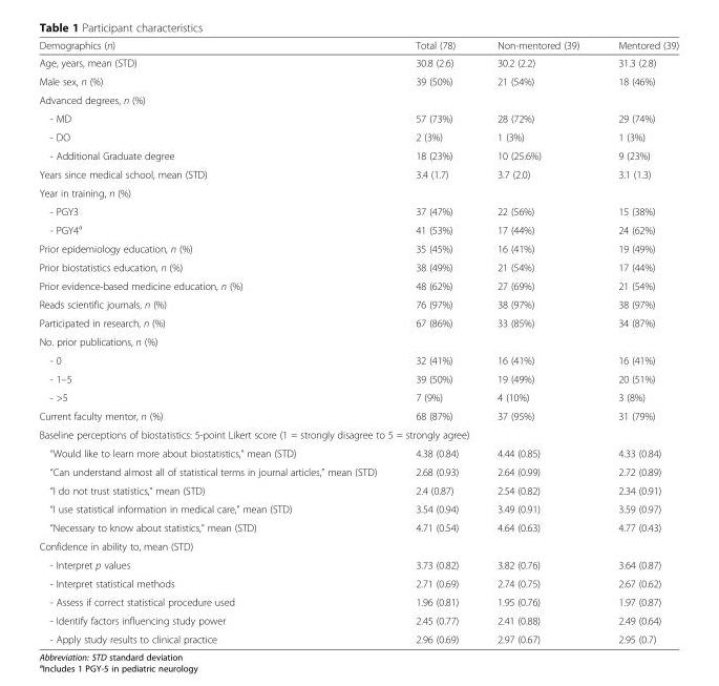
<table><thead><tr><td>Demographics (n)</td><td>Total (78)</td><td>Non-mentored (39)</td><td>Mentored (39)</td></tr></thead><tbody><tr><td>Age, years, mean (STD)</td><td>30.8 (2.6)</td><td>30.2 (2.2)</td><td>31.3 (2.8)</td></tr><tr><td>Male sex, n (%)</td><td>39 (50%)</td><td>21 (54%)</td><td>18 (46%)</td></tr><tr><td colspan="4">Advanced degrees, n (%)</td></tr><tr><td>- MD</td><td>57 (73%)</td><td>28 (72%)</td><td>29 (74%)</td></tr><tr><td>- DO</td><td>2 (3%)</td><td>1 (3%)</td><td>1 (3%)</td></tr><tr><td>- Additional Graduate degree</td><td>18 (23%)</td><td>10 (25.6%)</td><td>9 (23%)</td></tr><tr><td>Years since medical school, mean (STD)</td><td>3.4 (1.7)</td><td>3.7 (2.0)</td><td>3.1 (1.3)</td></tr><tr><td colspan="4">Year in training, n (%)</td></tr><tr><td>- PGY3</td><td>37 (47%)</td><td>22 (56%)</td><td>15 (38%)</td></tr><tr><td>- PGY4<sup>a</sup></td><td>41 (53%)</td><td>17 (44%)</td><td>24 (62%)</td></tr><tr><td>Prior epidemiology education, n (%)</td><td>35 (45%)</td><td>16 (41%)</td><td>19 (49%)</td></tr><tr><td>Prior biostatistics education, n (%)</td><td>38 (49%)</td><td>21 (54%)</td><td>17 (44%)</td></tr><tr><td>Prior evidence-based medicine education, n (%)</td><td>48 (62%)</td><td>27 (69%)</td><td>21 (54%)</td></tr><tr><td>Reads scientific journals, n (%)</td><td>76 (97%)</td><td>38 (97%)</td><td>38 (97%)</td></tr><tr><td>Participated in research, n (%)</td><td>67 (86%)</td><td>33 (85%)</td><td>34 (87%)</td></tr><tr><td colspan="4">No. prior publications, n (%)</td></tr><tr><td>- 0</td><td>32 (41%)</td><td>16 (41%)</td><td>16 (41%)</td></tr><tr><td>- 1–5</td><td>39 (50%)</td><td>19 (49%)</td><td>20 (51%)</td></tr><tr><td>- &gt;5</td><td>7 (9%)</td><td>4 (10%)</td><td>3 (8%)</td></tr><tr><td>Current faculty mentor, n (%)</td><td>68 (87%)</td><td>37 (95%)</td><td>31 (79%)</td></tr><tr><td colspan="4">Baseline perceptions of biostatistics: 5-point Likert score (1 = strongly disagree to 5 = strongly agree)</td></tr><tr><td>“Would like to learn more about biostatistics,” mean (STD)</td><td>4.38 (0.84)</td><td>4.44 (0.85)</td><td>4.33 (0.84)</td></tr><tr><td>“Can understand almost all of statistical terms in journal articles,” mean (STD)</td><td>2.68 (0.93)</td><td>2.64 (0.99)</td><td>2.72 (0.89)</td></tr><tr><td>“I do not trust statistics,” mean (STD)</td><td>2.4 (0.87)</td><td>2.54 (0.82)</td><td>2.34 (0.91)</td></tr><tr><td>“I use statistical information in medical care,” mean (STD)</td><td>3.54 (0.94)</td><td>3.49 (0.91)</td><td>3.59 (0.97)</td></tr><tr><td>“Necessary to know about statistics,” mean (STD)</td><td>4.71 (0.54)</td><td>4.64 (0.63)</td><td>4.77 (0.43)</td></tr><tr><td colspan="4">Confidence in ability to, mean (STD)</td></tr><tr><td>- Interpret p values</td><td>3.73 (0.82)</td><td>3.82 (0.76)</td><td>3.64 (0.87)</td></tr><tr><td>- Interpret statistical methods</td><td>2.71 (0.69)</td><td>2.74 (0.75)</td><td>2.67 (0.62)</td></tr><tr><td>- Assess if correct statistical procedure used</td><td>1.96 (0.81)</td><td>1.95 (0.76)</td><td>1.97 (0.87)</td></tr><tr><td>- Identify factors influencing study power</td><td>2.45 (0.77)</td><td>2.41 (0.88)</td><td>2.49 (0.64)</td></tr><tr><td>- Apply study results to clinical practice</td><td>2.96 (0.69)</td><td>2.97 (0.67)</td><td>2.95 (0.7)</td></tr></tbody></table>